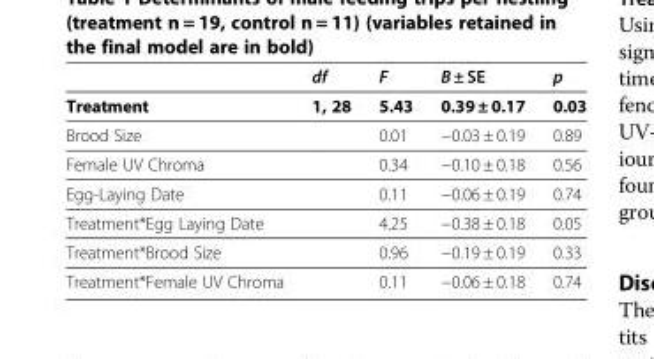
<table><thead><tr><td></td><td>df</td><td>F</td><td>B ± SE</td><td>p</td></tr></thead><tbody><tr><td>Treatment</td><td>1, 28</td><td>5.43</td><td>0.39 ± 0.17</td><td>0.03</td></tr><tr><td>Brood Size</td><td></td><td>0.01</td><td>−0.03 ± 0.19</td><td>0.89</td></tr><tr><td>Female UV Chroma</td><td></td><td>0.34</td><td>−0.10 ± 0.18</td><td>0.56</td></tr><tr><td>Egg-Laying Date</td><td></td><td>0.11</td><td>−0.06 ± 0.19</td><td>0.74</td></tr><tr><td>Treatment*Egg Laying Date</td><td></td><td>4.25</td><td>−0.38 ± 0.18</td><td>0.05</td></tr><tr><td>Treatment*Brood Size</td><td></td><td>0.96</td><td>−0.19 ± 0.19</td><td>0.33</td></tr><tr><td>Treatment*Female UV Chroma</td><td></td><td>0.11</td><td>−0.06 ± 0.18</td><td>0.74</td></tr></tbody></table>